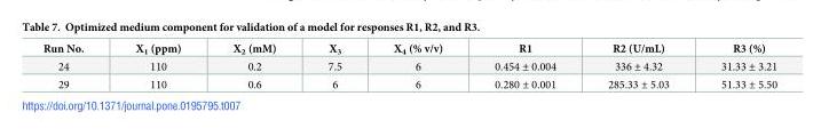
<table><thead><tr><td>Run No.</td><td>X<sub>1</sub> (ppm)</td><td>X<sub>2</sub> (mM)</td><td>X<sub>3</sub></td><td>X<sub>4</sub> (% v/v)</td><td>R1</td><td>R2 (U/mL)</td><td>R3 (%)</td></tr></thead><tbody><tr><td>24</td><td>110</td><td>0.2</td><td>7.5</td><td>6</td><td>0.454 ± 0.004</td><td>336 ± 4.32</td><td>31.33 ± 3.21</td></tr><tr><td>29</td><td>110</td><td>0.6</td><td>6</td><td>6</td><td>0.280 ± 0.001</td><td>285.33 ± 5.03</td><td>51.33 ± 5.50</td></tr></tbody></table>